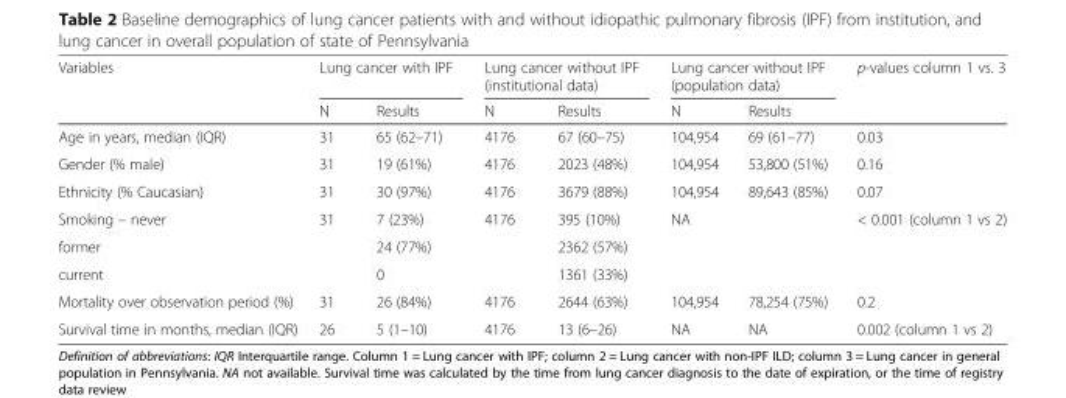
<table><thead><tr><td rowspan="2">Variables</td><td colspan="2">Lung cancer with IPF</td><td colspan="2">Lung cancer without IPF (institutional data)</td><td colspan="2">Lung cancer without IPF (population data)</td><td rowspan="2">p-values column 1 vs. 3</td></tr><tr><td>N</td><td>Results</td><td>N</td><td>Results</td><td>N</td><td>Results</td></tr></thead><tbody><tr><td>Age in years, median (IQR)</td><td>31</td><td>65 (62–71)</td><td>4176</td><td>67 (60–75)</td><td>104,954</td><td>69 (61–77)</td><td>0.03</td></tr><tr><td>Gender (% male)</td><td>31</td><td>19 (61%)</td><td>4176</td><td>2023 (48%)</td><td>104,954</td><td>53,800 (51%)</td><td>0.16</td></tr><tr><td>Ethnicity (% Caucasian)</td><td>31</td><td>30 (97%)</td><td>4176</td><td>3679 (88%)</td><td>104,954</td><td>89,643 (85%)</td><td>0.07</td></tr><tr><td>Smoking – never</td><td rowspan="3">31</td><td>7 (23%)</td><td rowspan="3">4176</td><td>395 (10%)</td><td rowspan="3" colspan="2">NA</td><td rowspan="3">&lt; 0.001 (column 1 vs 2)</td></tr><tr><td>former</td><td>24 (77%)</td><td>2362 (57%)</td></tr><tr><td>current</td><td>0</td><td>1361 (33%)</td></tr><tr><td>Mortality over observation period (%)</td><td>31</td><td>26 (84%)</td><td>4176</td><td>2644 (63%)</td><td>104,954</td><td>78,254 (75%)</td><td>0.2</td></tr><tr><td>Survival time in months, median (IQR)</td><td>26</td><td>5 (1–10)</td><td>4176</td><td>13 (6–26)</td><td>NA</td><td>NA</td><td>0.002 (column 1 vs 2)</td></tr></tbody></table>